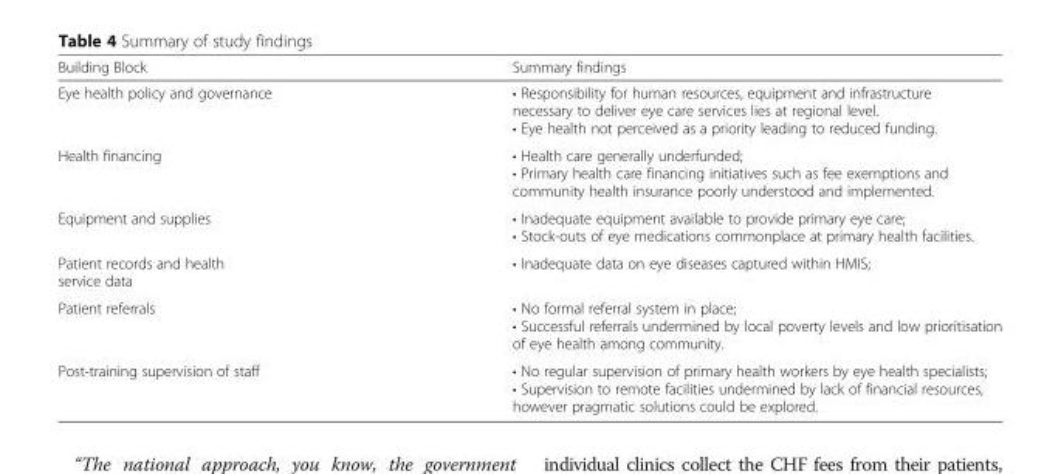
<table><thead><tr><td>Building Block</td><td>Summary findings</td></tr></thead><tbody><tr><td>Eye health policy and governance</td><td>• Responsibility for human resources, equipment and infrastructure necessary to deliver eye care services lies at regional level. • Eye health not perceived as a priority leading to reduced funding.</td></tr><tr><td>Health financing</td><td>• Health care generally underfunded; • Primary health care financing initiatives such as fee exemptions and community health insurance poorly understood and implemented.</td></tr><tr><td>Equipment and supplies</td><td>• Inadequate equipment available to provide primary eye care; • Stock-outs of eye medications commonplace at primary health facilities.</td></tr><tr><td>Patient records and health service data</td><td>• Inadequate data on eye diseases captured within HMIS;</td></tr><tr><td>Patient referrals</td><td>• No formal referral system in place; • Successful referrals undermined by local poverty levels and low prioritisation of eye health among community.</td></tr><tr><td>Post-training supervision of staff</td><td>• No regular supervision of primary health workers by eye health specialists; • Supervision to remote facilities undermined by lack of financial resources, however pragmatic solutions could be explored.</td></tr></tbody></table>